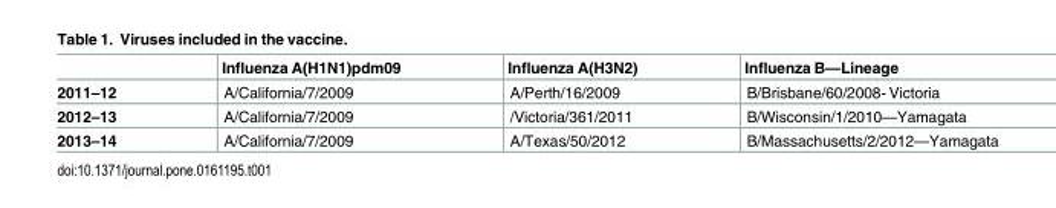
<table><thead><tr><td></td><td>Influenza A(H1N1)pdm09</td><td>Influenza A(H3N2)</td><td>Influenza B—Lineage</td></tr></thead><tbody><tr><td>2011–12</td><td>A/California/7/2009</td><td>A/Perth/16/2009</td><td>B/Brisbane/60/2008- Victoria</td></tr><tr><td>2012–13</td><td>A/California/7/2009</td><td>/Victoria/361/2011</td><td>B/Wisconsin/1/2010—Yamagata</td></tr><tr><td>2013–14</td><td>A/California/7/2009</td><td>A/Texas/50/2012</td><td>B/Massachusetts/2/2012—Yamagata</td></tr></tbody></table>